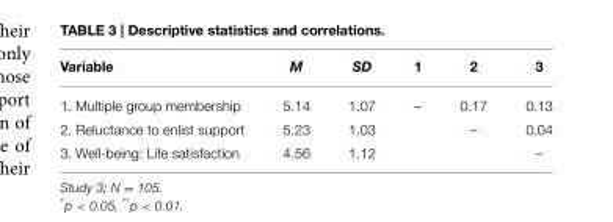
<table><thead><tr><td>Variable</td><td>M</td><td>SD</td><td>1</td><td>2</td><td>3</td></tr></thead><tbody><tr><td>1. Multiple group membership</td><td>5.14</td><td>1.07</td><td>–</td><td>0.17</td><td>0.13</td></tr><tr><td>2. Reluctance to enlist support</td><td>5.23</td><td>1.03</td><td></td><td>–</td><td>0.04</td></tr><tr><td>3. Well-being: Life satisfaction</td><td>4.56</td><td>1.12</td><td></td><td></td><td>–</td></tr></tbody></table>